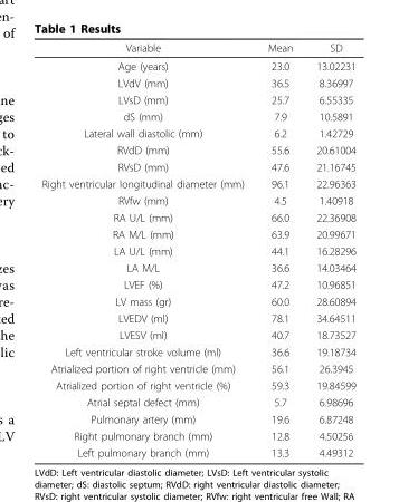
<table><thead><tr><td>Variable</td><td>Mean</td><td>SD</td></tr></thead><tbody><tr><td>Age (years)</td><td>23.0</td><td>13.02231</td></tr><tr><td>LVdV (mm)</td><td>36.5</td><td>8.36997</td></tr><tr><td>LVsD (mm)</td><td>25.7</td><td>6.55335</td></tr><tr><td>dS (mm)</td><td>7.9</td><td>10.5891</td></tr><tr><td>Lateral wall diastolic (mm)</td><td>6.2</td><td>1.42729</td></tr><tr><td>RVdD (mm)</td><td>55.6</td><td>20.61004</td></tr><tr><td>RVsD (mm)</td><td>47.6</td><td>21.16745</td></tr><tr><td>Right ventricular longitudinal diameter (mm)</td><td>96.1</td><td>22.96363</td></tr><tr><td>RVfw (mm)</td><td>4.5</td><td>1.40918</td></tr><tr><td>RA U/L (mm)</td><td>66.0</td><td>22.36908</td></tr><tr><td>RA M/L (mm)</td><td>63.9</td><td>20.99671</td></tr><tr><td>LA U/L (mm)</td><td>44.1</td><td>16.28296</td></tr><tr><td>LA M/L</td><td>36.6</td><td>14.03464</td></tr><tr><td>LVEF (%)</td><td>47.2</td><td>10.96851</td></tr><tr><td>LV mass (gr)</td><td>60.0</td><td>28.60894</td></tr><tr><td>LVEDV (ml)</td><td>78.1</td><td>34.64511</td></tr><tr><td>LVESV (ml)</td><td>40.7</td><td>18.73527</td></tr><tr><td>Left ventricular stroke volume (ml)</td><td>36.6</td><td>19.18734</td></tr><tr><td>Atrialized portion of right ventricle (mm)</td><td>56.1</td><td>26.3945</td></tr><tr><td>Atrialized portion of right ventricle (%)</td><td>59.3</td><td>19.84599</td></tr><tr><td>Atrial septal defect (mm)</td><td>5.7</td><td>6.98696</td></tr><tr><td>Pulmonary artery (mm)</td><td>19.6</td><td>6.87248</td></tr><tr><td>Right pulmonary branch (mm)</td><td>12.8</td><td>4.50256</td></tr><tr><td>Left pulmonary branch (mm)</td><td>13.3</td><td>4.49312</td></tr></tbody></table>